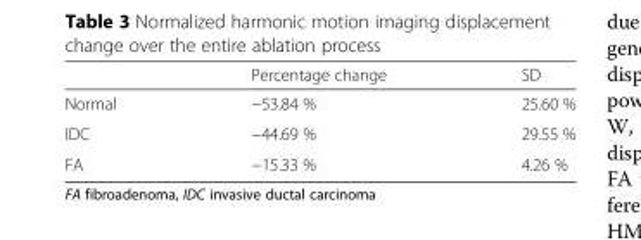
<table><thead><tr><td></td><td>Percentage change</td><td>SD</td></tr></thead><tbody><tr><td>Normal</td><td>−53.84 %</td><td>25.60 %</td></tr><tr><td>IDC</td><td>−44.69 %</td><td>29.55 %</td></tr><tr><td>FA</td><td>−15.33 %</td><td>4.26 %</td></tr></tbody></table>